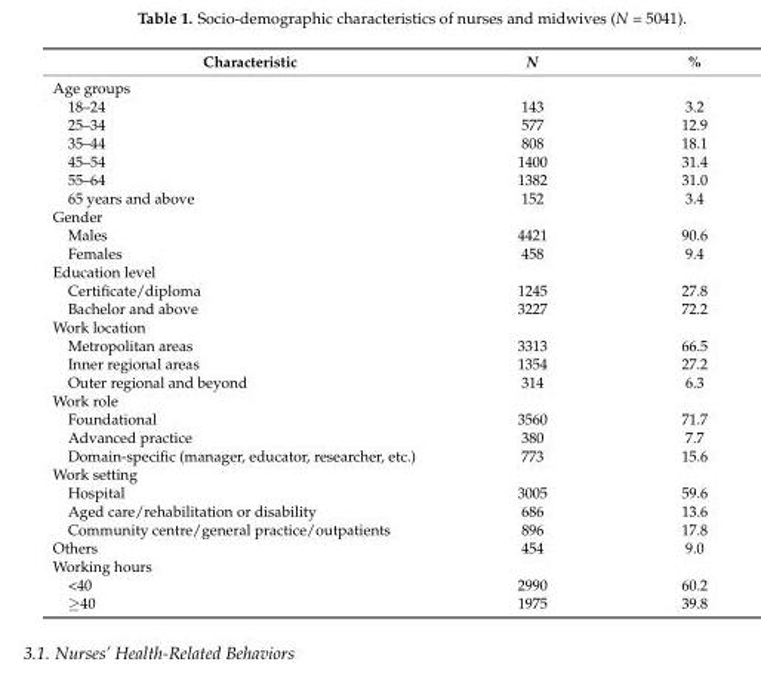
<table><thead><tr><td>Characteristic</td><td>N</td><td>%</td></tr></thead><tbody><tr><td colspan="3">Age groups</td></tr><tr><td>18–24</td><td>143</td><td>3.2</td></tr><tr><td>25–34</td><td>577</td><td>12.9</td></tr><tr><td>35–44</td><td>808</td><td>18.1</td></tr><tr><td>45–54</td><td>1400</td><td>31.4</td></tr><tr><td>55–64</td><td>1382</td><td>31.0</td></tr><tr><td>65 years and above</td><td>152</td><td>3.4</td></tr><tr><td colspan="3">Gender</td></tr><tr><td>Males</td><td>4421</td><td>90.6</td></tr><tr><td>Females</td><td>458</td><td>9.4</td></tr><tr><td colspan="3">Education level</td></tr><tr><td>Certificate/diploma</td><td>1245</td><td>27.8</td></tr><tr><td>Bachelor and above</td><td>3227</td><td>72.2</td></tr><tr><td colspan="3">Work location</td></tr><tr><td>Metropolitan areas</td><td>3313</td><td>66.5</td></tr><tr><td>Inner regional areas</td><td>1354</td><td>27.2</td></tr><tr><td>Outer regional and beyond</td><td>314</td><td>6.3</td></tr><tr><td colspan="3">Work role</td></tr><tr><td>Foundational</td><td>3560</td><td>71.7</td></tr><tr><td>Advanced practice</td><td>380</td><td>7.7</td></tr><tr><td>Domain-specific (manager, educator, researcher, etc.)</td><td>773</td><td>15.6</td></tr><tr><td colspan="3">Work setting</td></tr><tr><td>Hospital</td><td>3005</td><td>59.6</td></tr><tr><td>Aged care/rehabilitation or disability</td><td>686</td><td>13.6</td></tr><tr><td>Community centre/general practice/outpatients</td><td>896</td><td>17.8</td></tr><tr><td>Others</td><td>454</td><td>9.0</td></tr><tr><td colspan="3">Working hours</td></tr><tr><td>&lt;40</td><td>2990</td><td>60.2</td></tr><tr><td>≥40</td><td>1975</td><td>39.8</td></tr></tbody></table>